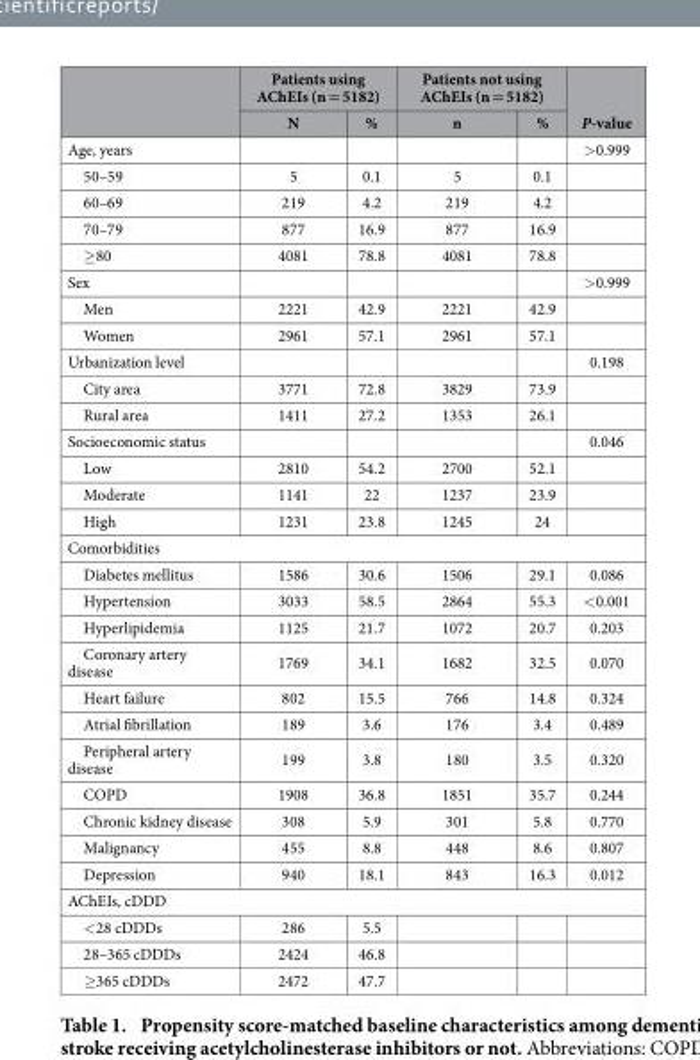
<table><thead><tr><td rowspan="2"></td><td colspan="2">Patients using AChEIs (n = 5182)</td><td colspan="2">Patients not using AChEIs (n = 5182)</td><td rowspan="2">P-value</td></tr><tr><td>N</td><td>%</td><td>n</td><td>%</td></tr></thead><tbody><tr><td>Age, years</td><td></td><td></td><td></td><td></td><td>&gt; 0.999</td></tr><tr><td>50–59</td><td>5</td><td>0.1</td><td>5</td><td>0.1</td><td></td></tr><tr><td>60–69</td><td>219</td><td>4.2</td><td>219</td><td>4.2</td><td></td></tr><tr><td>70–79</td><td>877</td><td>16.9</td><td>877</td><td>16.9</td><td></td></tr><tr><td>≥ 80</td><td>4081</td><td>78.8</td><td>4081</td><td>78.8</td><td></td></tr><tr><td>Sex</td><td></td><td></td><td></td><td></td><td>&gt; 0.999</td></tr><tr><td>Men</td><td>2221</td><td>42.9</td><td>2221</td><td>42.9</td><td></td></tr><tr><td>Women</td><td>2961</td><td>57.1</td><td>2961</td><td>57.1</td><td></td></tr><tr><td>Urbanization level</td><td></td><td></td><td></td><td></td><td>0.198</td></tr><tr><td>City area</td><td>3771</td><td>72.8</td><td>3829</td><td>73.9</td><td></td></tr><tr><td>Rural area</td><td>1411</td><td>27.2</td><td>1353</td><td>26.1</td><td></td></tr><tr><td>Socioeconomic status</td><td></td><td></td><td></td><td></td><td>0.046</td></tr><tr><td>Low</td><td>2810</td><td>54.2</td><td>2700</td><td>52.1</td><td></td></tr><tr><td>Moderate</td><td>1141</td><td>22</td><td>1237</td><td>23.9</td><td></td></tr><tr><td>High</td><td>1231</td><td>23.8</td><td>1245</td><td>24</td><td></td></tr><tr><td colspan="6">Comorbidities</td></tr><tr><td>Diabetes mellitus</td><td>1586</td><td>30.6</td><td>1506</td><td>29.1</td><td>0.086</td></tr><tr><td>Hypertension</td><td>3033</td><td>58.5</td><td>2864</td><td>55.3</td><td>&lt; 0.001</td></tr><tr><td>Hyperlipidemia</td><td>1125</td><td>21.7</td><td>1072</td><td>20.7</td><td>0.203</td></tr><tr><td>Coronary artery disease</td><td>1769</td><td>34.1</td><td>1682</td><td>32.5</td><td>0.070</td></tr><tr><td>Heart failure</td><td>802</td><td>15.5</td><td>766</td><td>14.8</td><td>0.324</td></tr><tr><td>Atrial fibrillation</td><td>189</td><td>3.6</td><td>176</td><td>3.4</td><td>0.489</td></tr><tr><td>Peripheral artery disease</td><td>199</td><td>3.8</td><td>180</td><td>3.5</td><td>0.320</td></tr><tr><td>COPD</td><td>1908</td><td>36.8</td><td>1851</td><td>35.7</td><td>0.244</td></tr><tr><td>Chronic kidney disease</td><td>308</td><td>5.9</td><td>301</td><td>5.8</td><td>0.770</td></tr><tr><td>Malignancy</td><td>455</td><td>8.8</td><td>448</td><td>8.6</td><td>0.807</td></tr><tr><td>Depression</td><td>940</td><td>18.1</td><td>843</td><td>16.3</td><td>0.012</td></tr><tr><td colspan="6">AChEIs, cDDD</td></tr><tr><td>&lt; 28 cDDDs</td><td>286</td><td>5.5</td><td></td><td></td><td></td></tr><tr><td>28–365 cDDDs</td><td>2424</td><td>46.8</td><td></td><td></td><td></td></tr><tr><td>≥ 365 cDDDs</td><td>2472</td><td>47.7</td><td></td><td></td><td></td></tr></tbody></table>